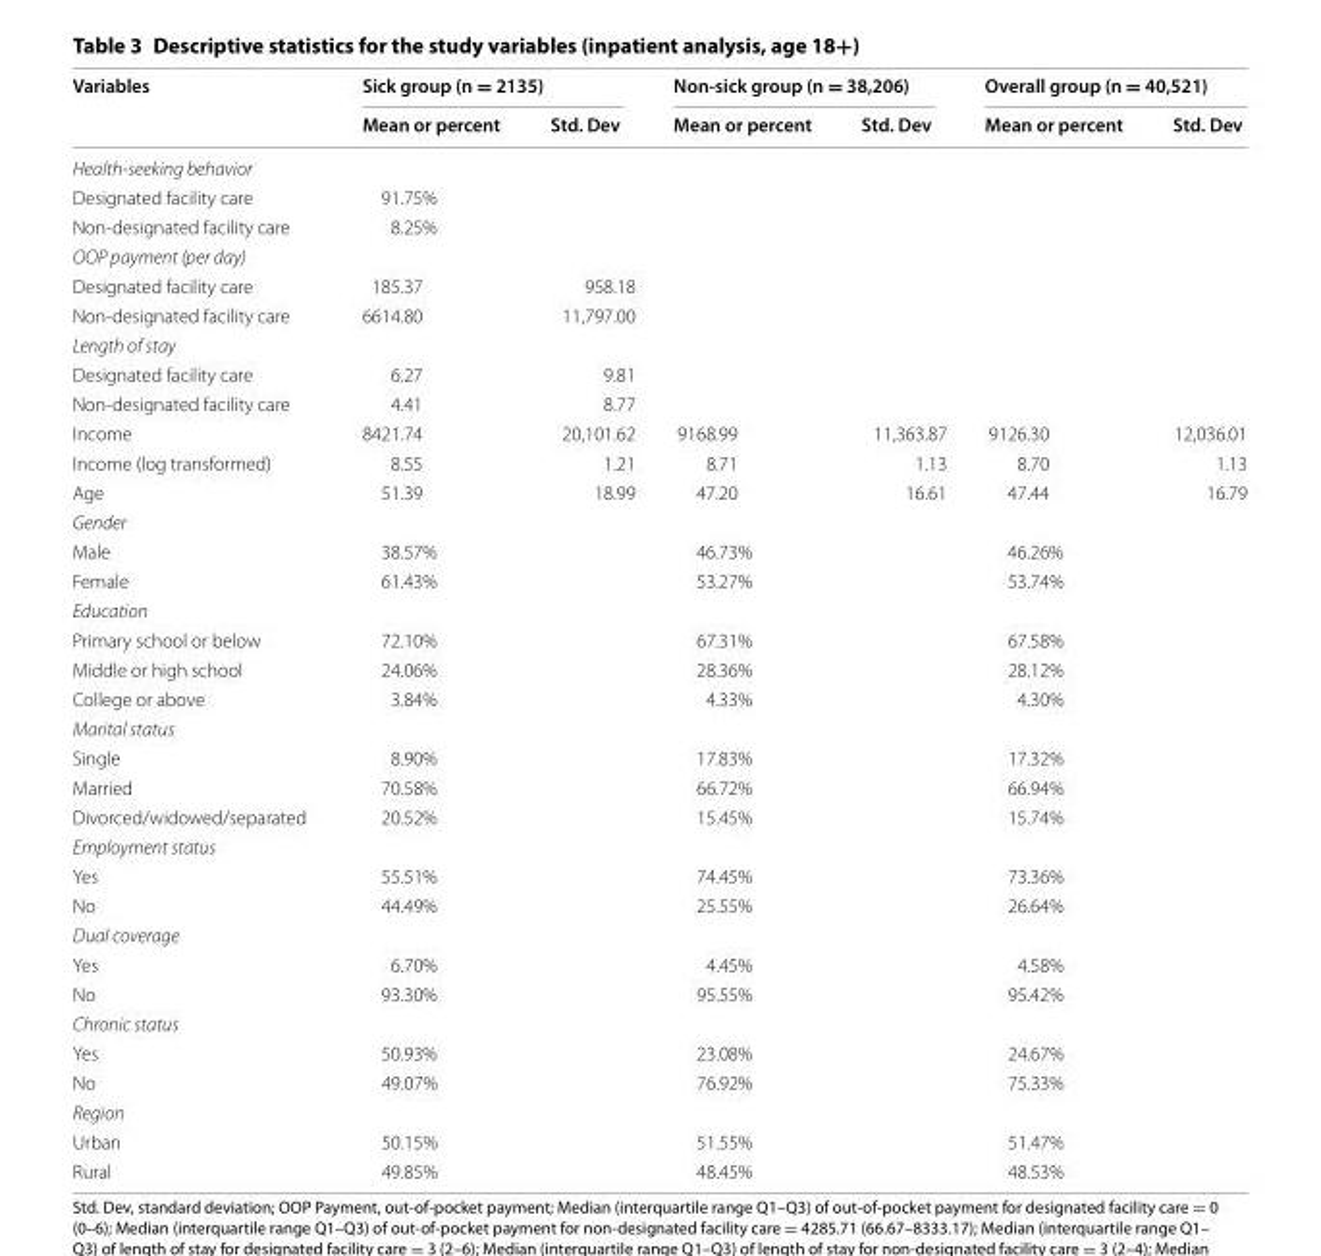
<table><thead><tr><td rowspan="2">Variables</td><td colspan="2">Sick group (n = 2135)</td><td colspan="2">Non-sick group (n = 38,206)</td><td colspan="2">Overall group (n = 40,521)</td></tr><tr><td>Mean or percent</td><td>Std. Dev</td><td>Mean or percent</td><td>Std. Dev</td><td>Mean or percent</td><td>Std. Dev</td></tr></thead><tbody><tr><td colspan="7">Health-seeking behavior</td></tr><tr><td>Designated facility care</td><td>91.75%</td><td></td><td></td><td></td><td></td><td></td></tr><tr><td>Non-designated facility care</td><td>8.25%</td><td></td><td></td><td></td><td></td><td></td></tr><tr><td colspan="7">OOP payment (per day)</td></tr><tr><td>Designated facility care</td><td>185.37</td><td>958.18</td><td></td><td></td><td></td><td></td></tr><tr><td>Non-designated facility care</td><td>6614.80</td><td>11,797.00</td><td></td><td></td><td></td><td></td></tr><tr><td colspan="7">Length of stay</td></tr><tr><td>Designated facility care</td><td>6.27</td><td>9.81</td><td></td><td></td><td></td><td></td></tr><tr><td>Non-designated facility care</td><td>4.41</td><td>8.77</td><td></td><td></td><td></td><td></td></tr><tr><td>Income</td><td>8421.74</td><td>20,101.62</td><td>9168.99</td><td>11,363.87</td><td>9126.30</td><td>12,036.01</td></tr><tr><td>Income (log transformed)</td><td>8.55</td><td>1.21</td><td>8.71</td><td>1.13</td><td>8.70</td><td>1.13</td></tr><tr><td>Age</td><td>51.39</td><td>18.99</td><td>47.20</td><td>16.61</td><td>47.44</td><td>16.79</td></tr><tr><td colspan="7">Gender</td></tr><tr><td>Male</td><td>38.57%</td><td></td><td>46.73%</td><td></td><td>46.26%</td><td></td></tr><tr><td>Female</td><td>61.43%</td><td></td><td>53.27%</td><td></td><td>53.74%</td><td></td></tr><tr><td colspan="7">Education</td></tr><tr><td>Primary school or below</td><td>72.10%</td><td></td><td>67.31%</td><td></td><td>67.58%</td><td></td></tr><tr><td>Middle or high school</td><td>24.06%</td><td></td><td>28.36%</td><td></td><td>28.12%</td><td></td></tr><tr><td>College or above</td><td>3.84%</td><td></td><td>4.33%</td><td></td><td>4.30%</td><td></td></tr><tr><td colspan="7">Marital status</td></tr><tr><td>Single</td><td>8.90%</td><td></td><td>17.83%</td><td></td><td>17.32%</td><td></td></tr><tr><td>Married</td><td>70.58%</td><td></td><td>66.72%</td><td></td><td>66.94%</td><td></td></tr><tr><td>Divorced/widowed/separated</td><td>20.52%</td><td></td><td>15.45%</td><td></td><td>15.74%</td><td></td></tr><tr><td colspan="7">Employment status</td></tr><tr><td>Yes</td><td>55.51%</td><td></td><td>74.45%</td><td></td><td>73.36%</td><td></td></tr><tr><td>No</td><td>44.49%</td><td></td><td>25.55%</td><td></td><td>26.64%</td><td></td></tr><tr><td colspan="7">Dual coverage</td></tr><tr><td>Yes</td><td>6.70%</td><td></td><td>4.45%</td><td></td><td>4.58%</td><td></td></tr><tr><td>No</td><td>93.30%</td><td></td><td>95.55%</td><td></td><td>95.42%</td><td></td></tr><tr><td colspan="7">Chronic status</td></tr><tr><td>Yes</td><td>50.93%</td><td></td><td>23.08%</td><td></td><td>24.67%</td><td></td></tr><tr><td>No</td><td>49.07%</td><td></td><td>76.92%</td><td></td><td>75.33%</td><td></td></tr><tr><td colspan="7">Region</td></tr><tr><td>Urban</td><td>50.15%</td><td></td><td>51.55%</td><td></td><td>51.47%</td><td></td></tr><tr><td>Rural</td><td>49.85%</td><td></td><td>48.45%</td><td></td><td>48.53%</td><td></td></tr></tbody></table>